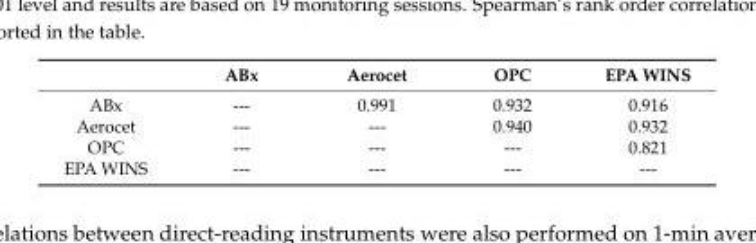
<table><thead><tr><td></td><td>ABx</td><td>Aerocet</td><td>OPC</td><td>EPA WINS</td></tr></thead><tbody><tr><td>ABx</td><td>---</td><td>0.991</td><td>0.932</td><td>0.916</td></tr><tr><td>Aerocet</td><td>---</td><td>---</td><td>0.940</td><td>0.932</td></tr><tr><td>OPC</td><td>---</td><td>---</td><td>---</td><td>0.821</td></tr><tr><td>EPA WINS</td><td>---</td><td>---</td><td>---</td><td>---</td></tr></tbody></table>